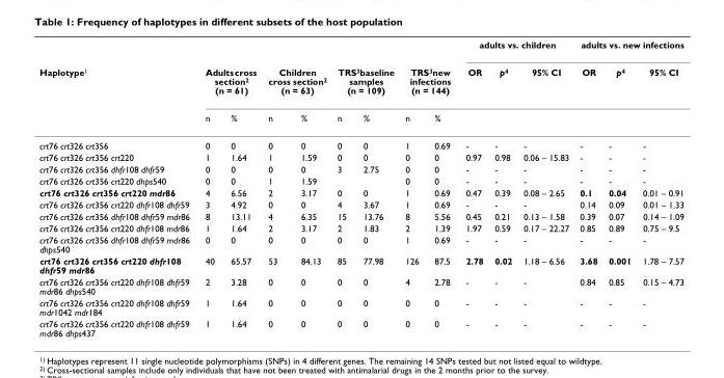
<table><thead><tr><td rowspan="3">Haplotype<sup>1</sup></td><td></td><td></td><td></td><td></td><td></td><td></td><td></td><td></td><td colspan="3">adults vs. children</td><td colspan="3">adults vs. new infections</td></tr><tr><td colspan="2">Adults cross section<sup>2</sup> (n = 61)</td><td colspan="2">Children cross section<sup>2</sup> (n = 63)</td><td colspan="2">TRS<sup>3</sup>baseline samples (n = 109)</td><td colspan="2">TRS<sup>3</sup>new infections (n = 144)</td><td rowspan="2">OR</td><td rowspan="2">p<sup>4</sup></td><td rowspan="2">95% CI</td><td rowspan="2">OR</td><td rowspan="2">p<sup>4</sup></td><td rowspan="2">95% CI</td></tr><tr><td>n</td><td>%</td><td>n</td><td>%</td><td>n</td><td>%</td><td>n</td><td>%</td></tr></thead><tbody><tr><td>crt76 crt326 crt356</td><td>0</td><td>0</td><td>0</td><td>0</td><td>0</td><td>0</td><td>1</td><td>0.69</td><td>-</td><td>-</td><td>-</td><td>-</td><td>-</td><td>-</td></tr><tr><td>crt76 crt326 crt356 crt220</td><td>1</td><td>1.64</td><td>1</td><td>1.59</td><td>0</td><td>0</td><td>0</td><td>0</td><td>0.97</td><td>0.98</td><td>0.06 – 15.83</td><td>-</td><td>-</td><td>-</td></tr><tr><td>crt76 crt326 crt356 dhfr108 dhfr59</td><td>0</td><td>0</td><td>0</td><td>0</td><td>3</td><td>2.75</td><td>0</td><td>0</td><td>-</td><td>-</td><td>-</td><td>-</td><td>-</td><td>-</td></tr><tr><td>crt76 crt326 crt356 crt220 dhps540</td><td>0</td><td>0</td><td>1</td><td>1.59</td><td></td><td></td><td>0</td><td>0</td><td>-</td><td>-</td><td>-</td><td>-</td><td>-</td><td>-</td></tr><tr><td>crt76 crt326 crt356 crt220 mdr86</td><td>4</td><td>6.56</td><td>2</td><td>3.17</td><td>0</td><td>0</td><td>1</td><td>0.69</td><td>0.47</td><td>0.39</td><td>0.08 – 2.65</td><td>0.1</td><td>0.04</td><td>0.01 – 0.91</td></tr><tr><td>crt76 crt326 crt356 crt220 dhfr108 dhfr59</td><td>3</td><td>4.92</td><td>0</td><td>0</td><td>4</td><td>3.67</td><td>1</td><td>0.69</td><td>-</td><td>-</td><td>-</td><td>0.14</td><td>0.09</td><td>0.01 – 1.33</td></tr><tr><td>crt76 crt326 crt356 dhfr108 dhfr59 mdr86</td><td>8</td><td>13.11</td><td>4</td><td>6.35</td><td>15</td><td>13.76</td><td>8</td><td>5.56</td><td>0.45</td><td>0.21</td><td>0.13 – 1.58</td><td>0.39</td><td>0.07</td><td>0.14 – 1.09</td></tr><tr><td>crt76 crt326 crt356 crt220 dhfr108 mdr86</td><td>1</td><td>1.64</td><td>2</td><td>3.17</td><td>2</td><td>1.83</td><td>2</td><td>1.39</td><td>1.97</td><td>0.59</td><td>0.17 – 22.27</td><td>0.85</td><td>0.89</td><td>0.75 – 9.5</td></tr><tr><td>crt76 crt326 crt356 dhfr108 dhfr59 mdr86 dhps540</td><td>0</td><td>0</td><td>0</td><td>0</td><td>0</td><td>0</td><td>1</td><td>0.69</td><td>-</td><td>-</td><td>-</td><td>-</td><td>-</td><td>-</td></tr><tr><td>crt76 crt326 crt356 crt220 dhfr108 dhfr59 mdr86</td><td>40</td><td>65.57</td><td>53</td><td>84.13</td><td>85</td><td>77.98</td><td>126</td><td>87.5</td><td>2.78</td><td>0.02</td><td>1.18 – 6.56</td><td>3.68</td><td>0.001</td><td>1.78 – 7.57</td></tr><tr><td>crt76 crt326 crt356 crt220 dhfr108 dhfr59 mdr86 dhps540</td><td>2</td><td>3.28</td><td>0</td><td>0</td><td>0</td><td>0</td><td>4</td><td>2.78</td><td>-</td><td>-</td><td>-</td><td>0.84</td><td>0.85</td><td>0.15 – 4.73</td></tr><tr><td>crt76 crt326 crt356 crt220 dhfr108 dhfr59 mdr1042 mdr184</td><td>1</td><td>1.64</td><td>0</td><td>0</td><td>0</td><td>0</td><td>0</td><td>0</td><td>-</td><td>-</td><td>-</td><td>-</td><td>-</td><td>-</td></tr><tr><td>crt76 crt326 crt356 crt220 dhfr108 dhfr59 mdr86 dhps437</td><td>1</td><td>1.64</td><td>0</td><td>0</td><td>0</td><td>0</td><td>0</td><td>0</td><td>-</td><td>-</td><td>-</td><td>-</td><td>-</td><td>-</td></tr></tbody></table>